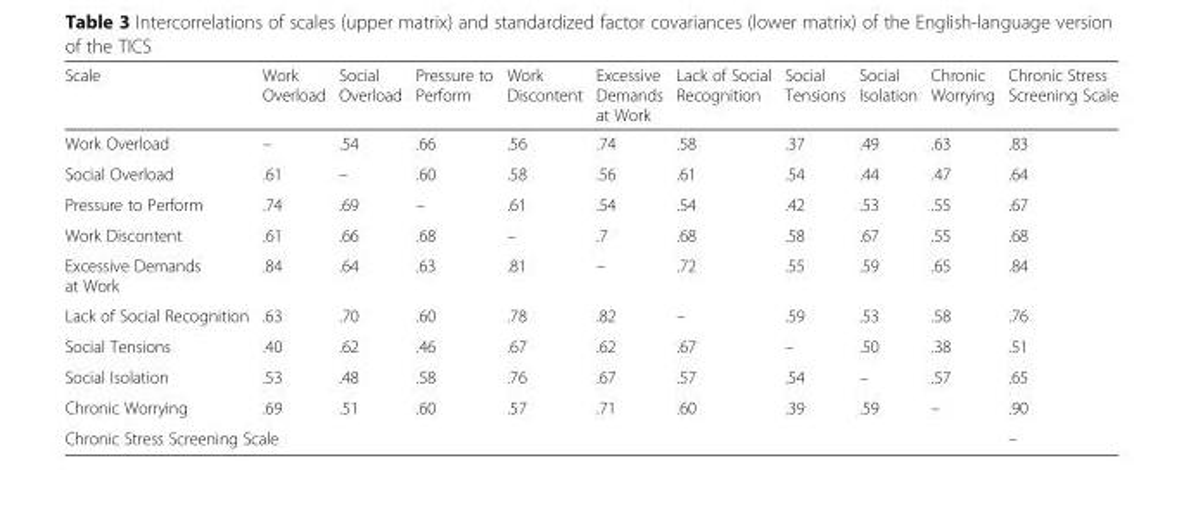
<table><thead><tr><td>Scale</td><td>Work Overload</td><td>Social Overload</td><td>Pressure to Perform</td><td>Work Discontent</td><td>Excessive Demands at Work</td><td>Lack of Social Recognition</td><td>Social Tensions</td><td>Social Isolation</td><td>Chronic Worrying</td><td>Chronic Stress Screening Scale</td></tr></thead><tbody><tr><td>Work Overload</td><td>–</td><td>.54</td><td>.66</td><td>.56</td><td>.74</td><td>.58</td><td>.37</td><td>.49</td><td>.63</td><td>.83</td></tr><tr><td>Social Overload</td><td>.61</td><td>–</td><td>.60</td><td>.58</td><td>.56</td><td>.61</td><td>.54</td><td>.44</td><td>.47</td><td>.64</td></tr><tr><td>Pressure to Perform</td><td>.74</td><td>.69</td><td>–</td><td>.61</td><td>.54</td><td>.54</td><td>.42</td><td>.53</td><td>.55</td><td>.67</td></tr><tr><td>Work Discontent</td><td>.61</td><td>.66</td><td>.68</td><td>–</td><td>.7</td><td>.68</td><td>.58</td><td>.67</td><td>.55</td><td>.68</td></tr><tr><td>Excessive Demands at Work</td><td>.84</td><td>.64</td><td>.63</td><td>.81</td><td>–</td><td>.72</td><td>.55</td><td>.59</td><td>.65</td><td>.84</td></tr><tr><td>Lack of Social Recognition</td><td>.63</td><td>.70</td><td>.60</td><td>.78</td><td>.82</td><td>–</td><td>.59</td><td>.53</td><td>.58</td><td>.76</td></tr><tr><td>Social Tensions</td><td>.40</td><td>.62</td><td>.46</td><td>.67</td><td>.62</td><td>.67</td><td>–</td><td>.50</td><td>.38</td><td>.51</td></tr><tr><td>Social Isolation</td><td>.53</td><td>.48</td><td>.58</td><td>.76</td><td>.67</td><td>.57</td><td>.54</td><td>–</td><td>.57</td><td>.65</td></tr><tr><td>Chronic Worrying</td><td>.69</td><td>.51</td><td>.60</td><td>.57</td><td>.71</td><td>.60</td><td>.39</td><td>.59</td><td>–</td><td>.90</td></tr><tr><td colspan="10">Chronic Stress Screening Scale</td><td>–</td></tr></tbody></table>